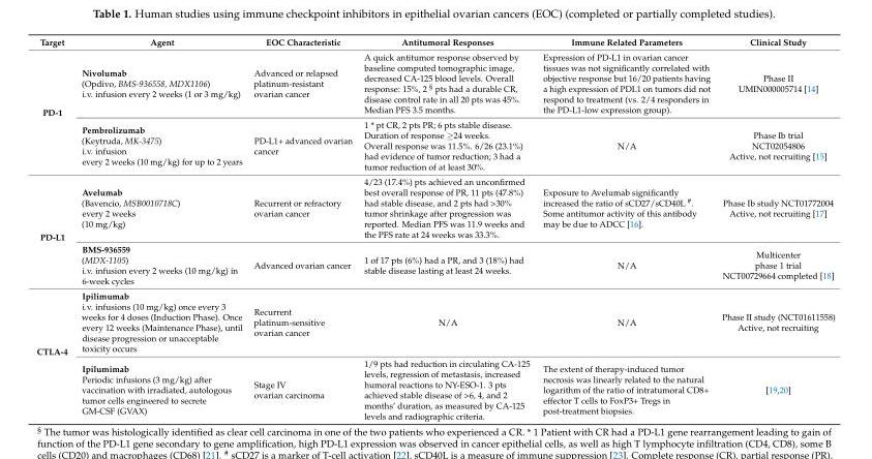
<table><thead><tr><td>Target</td><td>Agent</td><td>EOC Characteristic</td><td>Antitumoral Responses</td><td>Immune Related Parameters</td><td>Clinical Study</td></tr></thead><tbody><tr><td rowspan="2">PD-1</td><td>Nivolumab (Opdivo, BMS-936558, MDX1106) i.v. infusion every 2 weeks (1 or 3 mg/kg)</td><td>Advanced or relapsed platinum-resistant ovarian cancer</td><td>A quick antitumor response observed by baseline computed tomographic image, decreased CA-125 blood levels. Overall response: 15%, 2 <sup>§</sup> pts had a durable CR, disease control rate in all 20 pts was 45%. Median PFS 3.5 months.</td><td>Expression of PD-L1 in ovarian cancer tissues was not significantly correlated with objective response but 16/20 patients having a high expression of PDL1 on tumors did not respond to treatment (vs. 2/4 responders in the PD-L1-low expression group).</td><td>Phase II UMIN000005714 [14]</td></tr><tr><td>Pembrolizumab (Keytruda, MK-3475) i.v. infusion every 2 weeks (10 mg/kg) for up to 2 years</td><td>PD-L1+ advanced ovarian cancer</td><td>1 * pt CR, 2 pts PR; 6 pts stable disease. Duration of response ≥24 weeks. Overall response was 11.5%. 6/26 (23.1%) had evidence of tumor reduction; 3 had a tumor reduction of at least 30%.</td><td>N/A</td><td>Phase Ib trial NCT02054806 Active, not recruiting [15]</td></tr><tr><td rowspan="2">PD-L1</td><td>Avelumab (Bavencio, MSB0010718C) every 2 weeks (10 mg/kg)</td><td>Recurrent or refractory ovarian cancer</td><td>4/23 (17.4%) pts achieved an unconfirmed best overall response of PR, 11 pts (47.8%) had stable disease, and 2 pts had &gt;30% tumor shrinkage after progression was reported. Median PFS was 11.9 weeks and the PFS rate at 24 weeks was 33.3%.</td><td>Exposure to Avelumab significantly increased the ratio of sCD27/sCD40L <sup>#</sup>. Some antitumor activity of this antibody may be due to ADCC [16].</td><td>Phase Ib study NCT01772004 Active, not recruiting [17]</td></tr><tr><td>BMS-936559 (MDX-1105) i.v. infusion every 2 weeks (10 mg/kg) in 6-week cycles</td><td>Advanced ovarian cancer</td><td>1 of 17 pts (6%) had a PR, and 3 (18%) had stable disease lasting at least 24 weeks.</td><td>N/A</td><td>Multicenter phase 1 trial NCT00729664 completed [18]</td></tr><tr><td rowspan="2">CTLA-4</td><td>Ipilimumab i.v. infusions (10 mg/kg) once every 3 weeks for 4 doses (Induction Phase). Once every 12 weeks (Maintenance Phase), until disease progression or unacceptable toxicity occurs</td><td>Recurrent platinum-sensitive ovarian cancer</td><td>N/A</td><td>N/A</td><td>Phase II study (NCT01611558) Active, not recruiting</td></tr><tr><td>Ipilumimab Periodic infusions (3 mg/kg) after vaccination with irradiated, autologous tumor cells engineered to secrete GM-CSF (GVAX)</td><td>Stage IV ovarian carcinoma</td><td>1/9 pts had reduction in circulating CA-125 levels, regression of metastasis, increased humoral reactions to NY-ESO-1. 3 pts achieved stable disease of &gt;6, 4, and 2 months’ duration, as measured by CA-125 levels and radiographic criteria.</td><td>The extent of therapy-induced tumor necrosis was linearly related to the natural logarithm of the ratio of intratumoral CD8+ effector T cells to FoxP3+ Tregs in post-treatment biopsies.</td><td>[19,20]</td></tr></tbody></table>